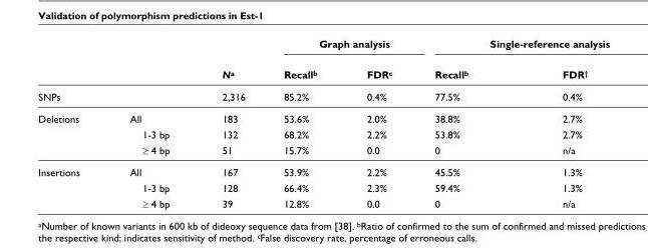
<table><thead><tr><td rowspan="2"></td><td rowspan="2"></td><td rowspan="2">N<sup>a</sup></td><td colspan="2">Graph analysis</td><td colspan="2">Single-reference analysis</td></tr><tr><td>Recall<sup>b</sup></td><td>FDR<sup>c</sup></td><td>Recall<sup>b</sup></td><td>FDR<sup>†</sup></td></tr></thead><tbody><tr><td>SNPs</td><td></td><td>2,316</td><td>85.2%</td><td>0.4%</td><td>77.5%</td><td>0.4%</td></tr><tr><td rowspan="3">Deletions</td><td>All</td><td>183</td><td>53.6%</td><td>2.0%</td><td>38.8%</td><td>2.7%</td></tr><tr><td>1-3 bp</td><td>132</td><td>68.2%</td><td>2.2%</td><td>53.8%</td><td>2.7%</td></tr><tr><td>≥ 4 bp</td><td>51</td><td>15.7%</td><td>0.0</td><td>0</td><td>n/a</td></tr><tr><td rowspan="3">Insertions</td><td>All</td><td>167</td><td>53.9%</td><td>2.2%</td><td>45.5%</td><td>1.3%</td></tr><tr><td>1-3 bp</td><td>128</td><td>66.4%</td><td>2.3%</td><td>59.4%</td><td>1.3%</td></tr><tr><td>≥ 4 bp</td><td>39</td><td>12.8%</td><td>0.0</td><td>0</td><td>n/a</td></tr></tbody></table>